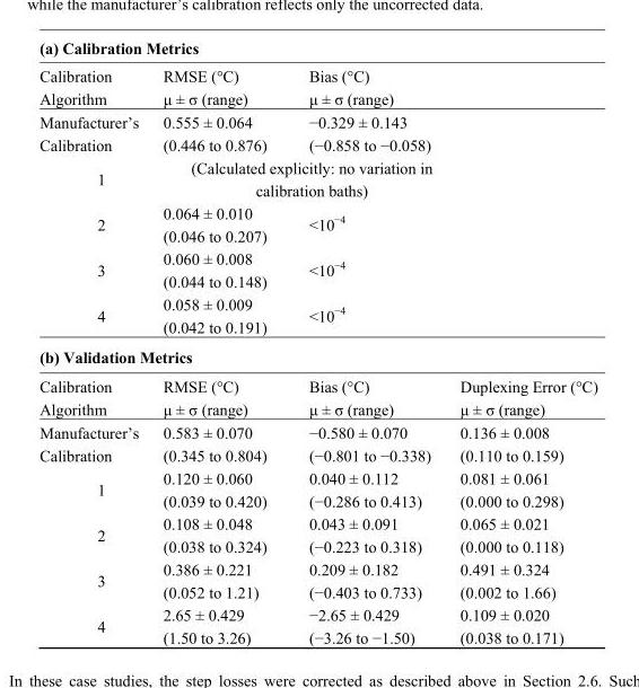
<table><tbody><tr><td colspan="4">(a) Calibration Metrics</td></tr><tr><td>Calibration Algorithm</td><td>RMSE (°C) μ ± σ (range)</td><td>Bias (°C) μ ± σ (range)</td><td></td></tr><tr><td>Manufacturer’s Calibration</td><td>0.555 ± 0.064 (0.446 to 0.876)</td><td>−0.329 ± 0.143 (−0.858 to −0.058)</td><td></td></tr><tr><td>1</td><td colspan="2">(Calculated explicitly: no variation in calibration baths)</td><td></td></tr><tr><td>2</td><td>0.064 ± 0.010 (0.046 to 0.207)</td><td>&lt;10<sup>−4</sup></td><td></td></tr><tr><td>3</td><td>0.060 ± 0.008 (0.044 to 0.148)</td><td>&lt;10<sup>−4</sup></td><td></td></tr><tr><td>4</td><td>0.058 ± 0.009 (0.042 to 0.191)</td><td>&lt;10<sup>−4</sup></td><td></td></tr><tr><td colspan="4">(b) Validation Metrics</td></tr><tr><td>Calibration Algorithm</td><td>RMSE (°C) μ ± σ (range)</td><td>Bias (°C) μ ± σ (range)</td><td>Duplexing Error (°C) μ ± σ (range)</td></tr><tr><td>Manufacturer’s Calibration</td><td>0.583 ± 0.070 (0.345 to 0.804)</td><td>−0.580 ± 0.070 (−0.801 to −0.338)</td><td>0.136 ± 0.008 (0.110 to 0.159)</td></tr><tr><td>1</td><td>0.120 ± 0.060 (0.039 to 0.420)</td><td>0.040 ± 0.112 (−0.286 to 0.413)</td><td>0.081 ± 0.061 (0.000 to 0.298)</td></tr><tr><td>2</td><td>0.108 ± 0.048 (0.038 to 0.324)</td><td>0.043 ± 0.091 (−0.223 to 0.318)</td><td>0.065 ± 0.021 (0.000 to 0.118)</td></tr><tr><td>3</td><td>0.386 ± 0.221 (0.052 to 1.21)</td><td>0.209 ± 0.182 (−0.403 to 0.733)</td><td>0.491 ± 0.324 (0.002 to 1.66)</td></tr><tr><td>4</td><td>2.65 ± 0.429 (1.50 to 3.26)</td><td>−2.65 ± 0.429 (−3.26 to −1.50)</td><td>0.109 ± 0.020 (0.038 to 0.171)</td></tr></tbody></table>